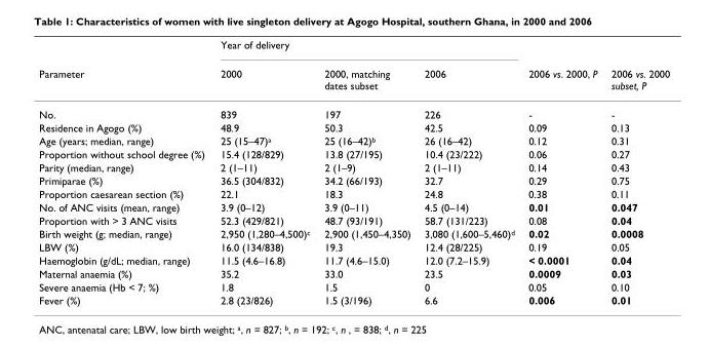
<table><thead><tr><td rowspan="2">Parameter</td><td colspan="3">Year of delivery</td><td rowspan="2">2006 vs. 2000, P</td><td rowspan="2">2006 vs. 2000 subset, P</td></tr><tr><td>2000</td><td>2000, matching dates subset</td><td>2006</td></tr></thead><tbody><tr><td>No.</td><td>839</td><td>197</td><td>226</td><td>-</td><td>-</td></tr><tr><td>Residence in Agogo (%)</td><td>48.9</td><td>50.3</td><td>42.5</td><td>0.09</td><td>0.13</td></tr><tr><td>Age (years; median, range)</td><td>25 (15–47)<sup>a</sup></td><td>25 (16–42)<sup>b</sup></td><td>26 (16–42)</td><td>0.12</td><td>0.31</td></tr><tr><td>Proportion without school degree (%)</td><td>15.4 (128/829)</td><td>13.8 (27/195)</td><td>10.4 (23/222)</td><td>0.06</td><td>0.27</td></tr><tr><td>Parity (median, range)</td><td>2 (1–11)</td><td>2 (1–9)</td><td>2 (1–11)</td><td>0.14</td><td>0.43</td></tr><tr><td>Primiparae (%)</td><td>36.5 (304/832)</td><td>34.2 (66/193)</td><td>32.7</td><td>0.29</td><td>0.75</td></tr><tr><td>Proportion caesarean section (%)</td><td>22.1</td><td>18.3</td><td>24.8</td><td>0.38</td><td>0.11</td></tr><tr><td>No. of ANC visits (mean, range)</td><td>3.9 (0–12)</td><td>3.9 (0–11)</td><td>4.5 (0–14)</td><td>0.01</td><td>0.047</td></tr><tr><td>Proportion with &gt; 3 ANC visits</td><td>52.3 (429/821)</td><td>48.7 (93/191)</td><td>58.7 (131/223)</td><td>0.08</td><td>0.04</td></tr><tr><td>Birth weight (g; median, range)</td><td>2,950 (1,280–4,500)<sup>c</sup></td><td>2,900 (1,450–4,350)</td><td>3,080 (1,600–5,460)<sup>d</sup></td><td>0.02</td><td>0.0008</td></tr><tr><td>LBW (%)</td><td>16.0 (134/838)</td><td>19.3</td><td>12.4 (28/225)</td><td>0.19</td><td>0.05</td></tr><tr><td>Haemoglobin (g/dL; median, range)</td><td>11.5 (4.6–16.8)</td><td>11.7 (4.6–15.0)</td><td>12.0 (7.2–15.9)</td><td>&lt; 0.0001</td><td>0.04</td></tr><tr><td>Maternal anaemia (%)</td><td>35.2</td><td>33.0</td><td>23.5</td><td>0.0009</td><td>0.03</td></tr><tr><td>Severe anaemia (Hb &lt; 7; %)</td><td>1.8</td><td>1.5</td><td>0</td><td>0.05</td><td>0.10</td></tr><tr><td>Fever (%)</td><td>2.8 (23/826)</td><td>1.5 (3/196)</td><td>6.6</td><td>0.006</td><td>0.01</td></tr></tbody></table>